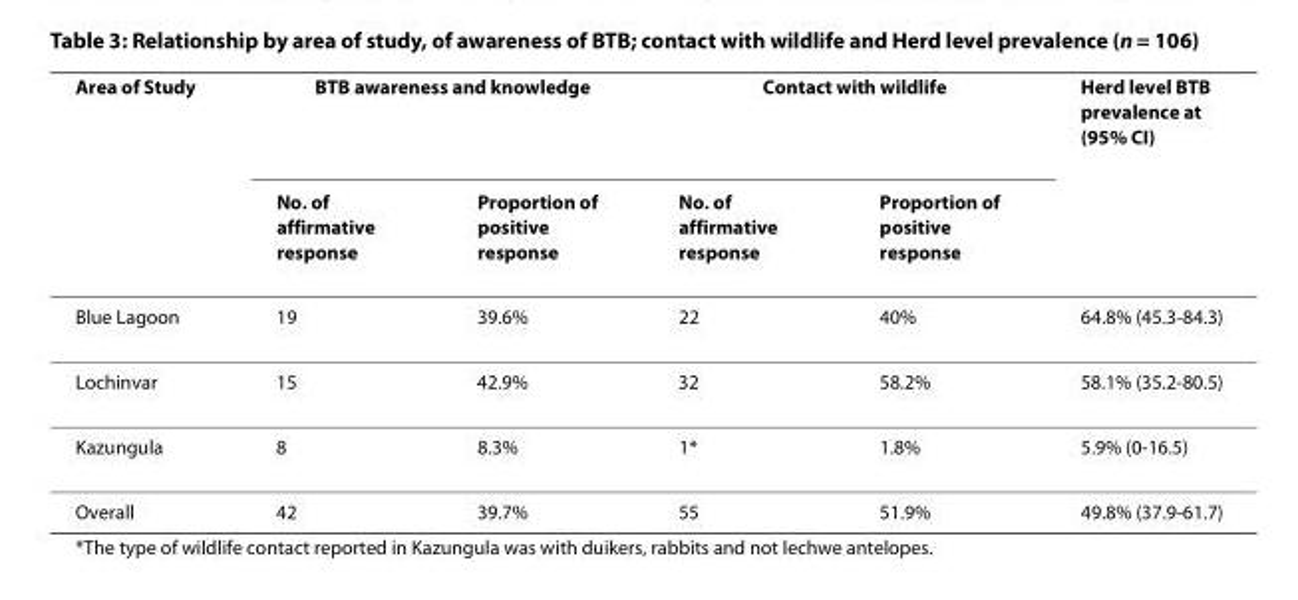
<table><thead><tr><td rowspan="2">Area of Study</td><td colspan="2">BTB awareness and knowledge</td><td colspan="2">Contact with wildlife</td><td rowspan="2">Herd level BTB prevalence at (95% CI)</td></tr><tr><td>No. of affirmative response</td><td>Proportion of positive response</td><td>No. of affirmative response</td><td>Proportion of positive response</td></tr></thead><tbody><tr><td>Blue Lagoon</td><td>19</td><td>39.6%</td><td>22</td><td>40%</td><td>64.8% (45.3-84.3)</td></tr><tr><td>Lochinvar</td><td>15</td><td>42.9%</td><td>32</td><td>58.2%</td><td>58.1% (35.2-80.5)</td></tr><tr><td>Kazungula</td><td>8</td><td>8.3%</td><td>1*</td><td>1.8%</td><td>5.9% (0-16.5)</td></tr><tr><td>Overall</td><td>42</td><td>39.7%</td><td>55</td><td>51.9%</td><td>49.8% (37.9-61.7)</td></tr></tbody></table>